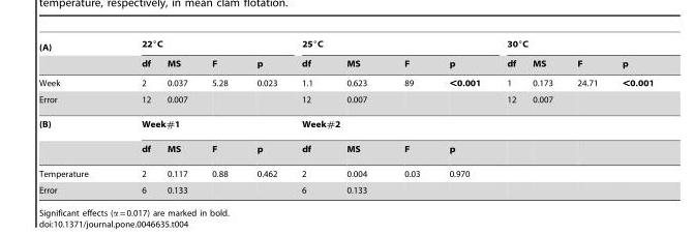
<table><thead><tr><td rowspan="2">(A)</td><td colspan="4">22°C</td><td colspan="4">25°C</td><td colspan="4">30°C</td></tr><tr><td>df</td><td>MS</td><td>F</td><td>p</td><td>df</td><td>MS</td><td>F</td><td>p</td><td>df</td><td>MS</td><td>F</td><td>p</td></tr></thead><tbody><tr><td>Week</td><td>2</td><td>0.037</td><td>5.28</td><td>0.023</td><td>1.1</td><td>0.623</td><td>89</td><td>&lt;0.001</td><td>1</td><td>0.173</td><td>24.71</td><td>&lt;0.001</td></tr><tr><td>Error</td><td>12</td><td>0.007</td><td></td><td></td><td>12</td><td>0.007</td><td></td><td></td><td>12</td><td>0.007</td><td></td><td></td></tr><tr><td rowspan="2">(B)</td><td colspan="4">Week#1</td><td colspan="4">Week#2</td><td></td><td></td><td></td><td></td></tr><tr><td>df</td><td>MS</td><td>F</td><td>p</td><td>df</td><td>MS</td><td>F</td><td>p</td><td></td><td></td><td></td><td></td></tr><tr><td>Temperature</td><td>2</td><td>0.117</td><td>0.88</td><td>0.462</td><td>2</td><td>0.004</td><td>0.03</td><td>0.970</td><td></td><td></td><td></td><td></td></tr><tr><td>Error</td><td>6</td><td>0.133</td><td></td><td></td><td>6</td><td>0.133</td><td></td><td></td><td></td><td></td><td></td><td></td></tr></tbody></table>